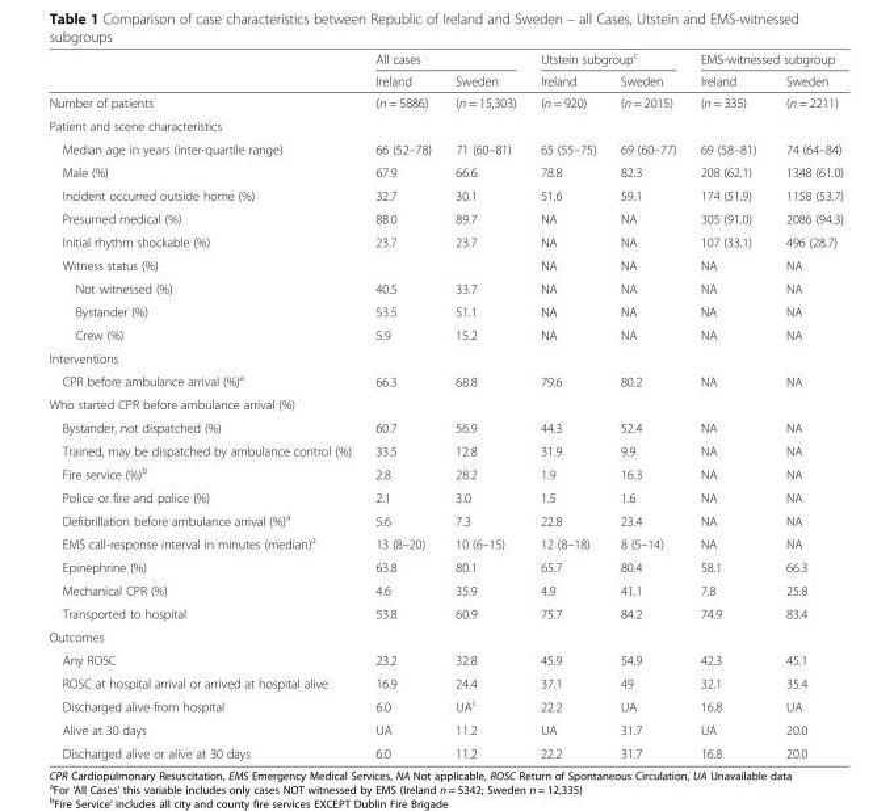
<table><thead><tr><td rowspan="2"></td><td colspan="2">All cases</td><td colspan="2">Utstein subgroup<sup>c</sup></td><td colspan="2">EMS-witnessed subgroup</td></tr><tr><td>Ireland</td><td>Sweden</td><td>Ireland</td><td>Sweden</td><td>Ireland</td><td>Sweden</td></tr></thead><tbody><tr><td>Number of patients</td><td>(n = 5886)</td><td>(n = 15,303)</td><td>(n = 920)</td><td>(n = 2015)</td><td>(n = 335)</td><td>(n = 2211)</td></tr><tr><td colspan="7">Patient and scene characteristics</td></tr><tr><td>Median age in years (inter-quartile range)</td><td>66 (52–78)</td><td>71 (60–81)</td><td>65 (55–75)</td><td>69 (60–77)</td><td>69 (58–81)</td><td>74 (64–84)</td></tr><tr><td>Male (%)</td><td>67.9</td><td>66.6</td><td>78.8</td><td>82.3</td><td>208 (62.1)</td><td>1348 (61.0)</td></tr><tr><td>Incident occurred outside home (%)</td><td>32.7</td><td>30.1</td><td>51.6</td><td>59.1</td><td>174 (51.9)</td><td>1158 (53.7)</td></tr><tr><td>Presumed medical (%)</td><td>88.0</td><td>89.7</td><td>NA</td><td>NA</td><td>305 (91.0)</td><td>2086 (94.3)</td></tr><tr><td>Initial rhythm shockable (%)</td><td>23.7</td><td>23.7</td><td>NA</td><td>NA</td><td>107 (33.1)</td><td>496 (28.7)</td></tr><tr><td>Witness status (%)</td><td></td><td></td><td>NA</td><td>NA</td><td>NA</td><td>NA</td></tr><tr><td>Not witnessed (%)</td><td>40.5</td><td>33.7</td><td>NA</td><td>NA</td><td>NA</td><td>NA</td></tr><tr><td>Bystander (%)</td><td>53.5</td><td>51.1</td><td>NA</td><td>NA</td><td>NA</td><td>NA</td></tr><tr><td>Crew (%)</td><td>5.9</td><td>15.2</td><td>NA</td><td>NA</td><td>NA</td><td>NA</td></tr><tr><td colspan="7">Interventions</td></tr><tr><td>CPR before ambulance arrival (%)<sup>a</sup></td><td>66.3</td><td>68.8</td><td>79.6</td><td>80.2</td><td>NA</td><td>NA</td></tr><tr><td colspan="7">Who started CPR before ambulance arrival (%)</td></tr><tr><td>Bystander, not dispatched (%)</td><td>60.7</td><td>56.9</td><td>44.3</td><td>52.4</td><td>NA</td><td>NA</td></tr><tr><td>Trained, may be dispatched by ambulance control (%)</td><td>33.5</td><td>12.8</td><td>31.9</td><td>9.9</td><td>NA</td><td>NA</td></tr><tr><td>Fire service (%)<sup>b</sup></td><td>2.8</td><td>28.2</td><td>1.9</td><td>16.3</td><td>NA</td><td>NA</td></tr><tr><td>Police or fire and police (%)</td><td>2.1</td><td>3.0</td><td>1.5</td><td>1.6</td><td>NA</td><td>NA</td></tr><tr><td>Defibrillation before ambulance arrival (%)<sup>a</sup></td><td>5.6</td><td>7.3</td><td>22.8</td><td>23.4</td><td>NA</td><td>NA</td></tr><tr><td>EMS call-response interval in minutes (median)<sup>a</sup></td><td>13 (8–20)</td><td>10 (6–15)</td><td>12 (8–18)</td><td>8 (5–14)</td><td>NA</td><td>NA</td></tr><tr><td>Epinephrine (%)</td><td>63.8</td><td>80.1</td><td>65.7</td><td>80.4</td><td>58.1</td><td>66.3</td></tr><tr><td>Mechanical CPR (%)</td><td>4.6</td><td>35.9</td><td>4.9</td><td>41.1</td><td>7.8</td><td>25.8</td></tr><tr><td>Transported to hospital</td><td>53.8</td><td>60.9</td><td>75.7</td><td>84.2</td><td>74.9</td><td>83.4</td></tr><tr><td colspan="7">Outcomes</td></tr><tr><td>Any ROSC</td><td>23.2</td><td>32.8</td><td>45.9</td><td>54.9</td><td>42.3</td><td>45.1</td></tr><tr><td>ROSC at hospital arrival or arrived at hospital alive</td><td>16.9</td><td>24.4</td><td>37.1</td><td>49</td><td>32.1</td><td>35.4</td></tr><tr><td>Discharged alive from hospital</td><td>6.0</td><td>UA<sup>c</sup></td><td>22.2</td><td>UA</td><td>16.8</td><td>UA</td></tr><tr><td>Alive at 30 days</td><td>UA</td><td>11.2</td><td>UA</td><td>31.7</td><td>UA</td><td>20.0</td></tr><tr><td>Discharged alive or alive at 30 days</td><td>6.0</td><td>11.2</td><td>22.2</td><td>31.7</td><td>16.8</td><td>20.0</td></tr></tbody></table>